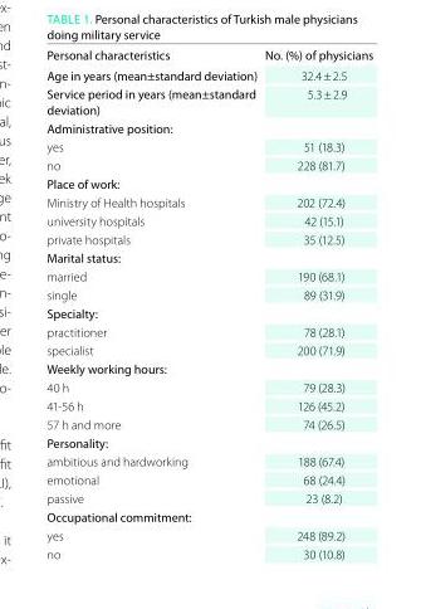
<table><thead><tr><td>Personal characteristics</td><td>No. (%) of physicians</td></tr></thead><tbody><tr><td>age in years (mean±standard deviation)</td><td>32.4 ± 2.5</td></tr><tr><td>Service period in years (mean±standard deviation)</td><td>5.3 ± 2.9</td></tr><tr><td colspan="2">administrative position:</td></tr><tr><td>yes</td><td>51 (18.3)</td></tr><tr><td>no</td><td>228 (81.7)</td></tr><tr><td colspan="2">Place of work:</td></tr><tr><td>Ministry of Health hospitals</td><td>202 (72.4)</td></tr><tr><td>university hospitals</td><td>42 (15.1)</td></tr><tr><td>private hospitals</td><td>35 (12.5)</td></tr><tr><td colspan="2">Marital status:</td></tr><tr><td>married</td><td>190 (68.1)</td></tr><tr><td>single</td><td>89 (31.9)</td></tr><tr><td colspan="2">Specialty:</td></tr><tr><td>practitioner</td><td>78 (28.1)</td></tr><tr><td>specialist</td><td>200 (71.9)</td></tr><tr><td colspan="2">Weekly working hours:</td></tr><tr><td>40 h</td><td>79 (28.3)</td></tr><tr><td>41-56 h</td><td>126 (45.2)</td></tr><tr><td>57 h and more</td><td>74 (26.5)</td></tr><tr><td colspan="2">Personality:</td></tr><tr><td>ambitious and hardworking</td><td>188 (67.4)</td></tr><tr><td>emotional</td><td>68 (24.4)</td></tr><tr><td>passive</td><td>23 (8.2)</td></tr><tr><td colspan="2">occupational commitment:</td></tr><tr><td>yes</td><td>248 (89.2)</td></tr><tr><td>no</td><td>30 (10.8)</td></tr></tbody></table>